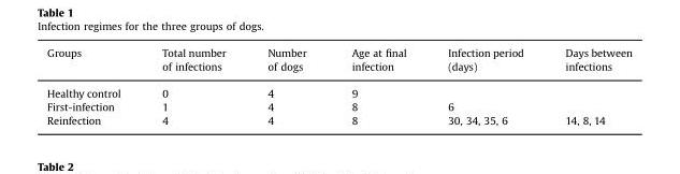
<table><thead><tr><td>Groups</td><td>Total number of infections</td><td>Number of dogs</td><td>Age at final infection</td><td>Infection period (days)</td><td>Days between infections</td></tr></thead><tbody><tr><td>Healthy control</td><td>0</td><td>4</td><td>9</td><td></td><td></td></tr><tr><td>First-infection</td><td>1</td><td>4</td><td>8</td><td>6</td><td></td></tr><tr><td>Reinfection</td><td>4</td><td>4</td><td>8</td><td>30, 34, 35, 6</td><td>14, 8, 14</td></tr></tbody></table>